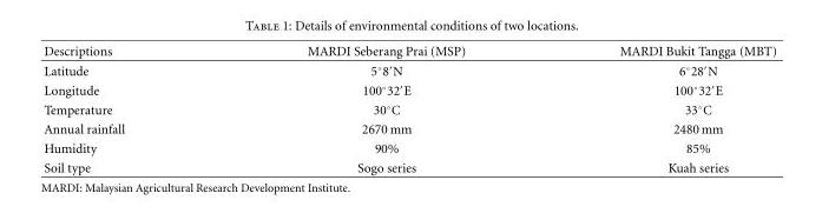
<table><thead><tr><td>Descriptions</td><td>MARDI Seberang Prai (MSP)</td><td>MARDI Bukit Tangga (MBT)</td></tr></thead><tbody><tr><td>Latitude</td><td>5◦8′N</td><td>6◦28′N</td></tr><tr><td>Longitude</td><td>100◦32′E</td><td>100◦32′E</td></tr><tr><td>Temperature</td><td>30◦C</td><td>33◦C</td></tr><tr><td>Annual rainfall</td><td>2670 mm</td><td>2480 mm</td></tr><tr><td>Humidity</td><td>90%</td><td>85%</td></tr><tr><td>Soil type</td><td>Sogo series</td><td>Kuah series</td></tr></tbody></table>